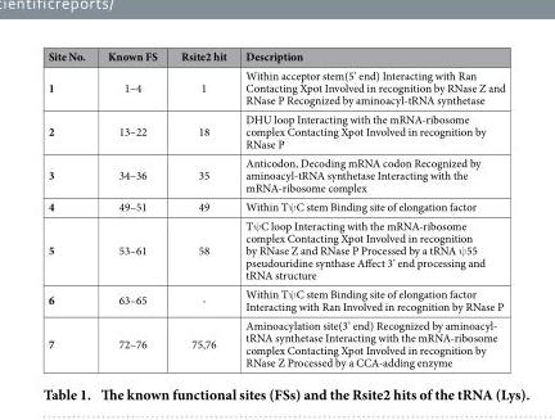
<table><thead><tr><td>Site No.</td><td>Known FS</td><td>Rsite2 hit</td><td>Description</td></tr></thead><tbody><tr><td>1</td><td>1–4</td><td>1</td><td>Within acceptor stem(5’ end) Interacting with Ran Contacting Xpot Involved in recognition by RNase Z and RNase P Recognized by aminoacyl-tRNA synthetase</td></tr><tr><td>2</td><td>13–22</td><td>18</td><td>DHU loop Interacting with the mRNA-ribosome complex Contacting Xpot Involved in recognition by RNase P</td></tr><tr><td>3</td><td>34–36</td><td>35</td><td>Anticodon, Decoding mRNA codon Recognized by aminoacyl-tRNA synthetase Interacting with the mRNA-ribosome complex</td></tr><tr><td>4</td><td>49–51</td><td>49</td><td>Within Tψ C stem Binding site of elongation factor</td></tr><tr><td>5</td><td>53–61</td><td>58</td><td>Tψ C loop Interacting with the mRNA-ribosome complex Contacting Xpot Involved in recognition by RNase Z and RNase P Processed by a tRNA ψ 55 pseudouridine synthase Affect 3’ end processing and tRNA structure</td></tr><tr><td>6</td><td>63–65</td><td>-</td><td>Within Tψ C stem Binding site of elongation factor Interacting with Ran Involved in recognition by RNase P</td></tr><tr><td>7</td><td>72–76</td><td>75,76</td><td>Aminoacylation site(3’ end) Recognized by aminoacyl- tRNA synthetase Interacting with the mRNA-ribosome complex Contacting Xpot Involved in recognition by RNase Z Processed by a CCA-adding enzyme</td></tr></tbody></table>